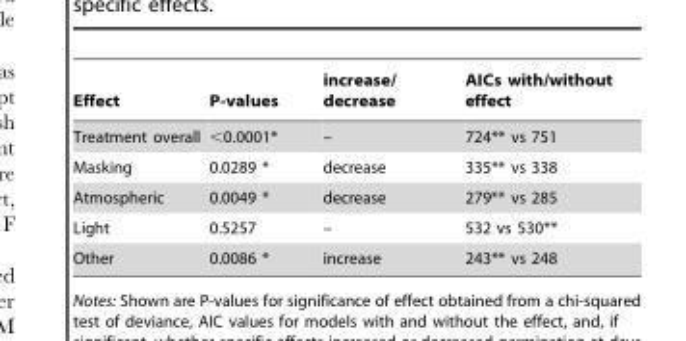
<table><thead><tr><td>Effect</td><td>P-values</td><td>increase/ decrease</td><td>AICs with/without effect</td></tr></thead><tbody><tr><td>Treatment overall</td><td>&lt;0.0001*</td><td>–</td><td>724** vs 751</td></tr><tr><td>Masking</td><td>0.0289 *</td><td>decrease</td><td>335** vs 338</td></tr><tr><td>Atmospheric</td><td>0.0049 *</td><td>decrease</td><td>279** vs 285</td></tr><tr><td>Light</td><td>0.5257</td><td>–</td><td>532 vs 530**</td></tr><tr><td>Other</td><td>0.0086 *</td><td>increase</td><td>243** vs 248</td></tr></tbody></table>